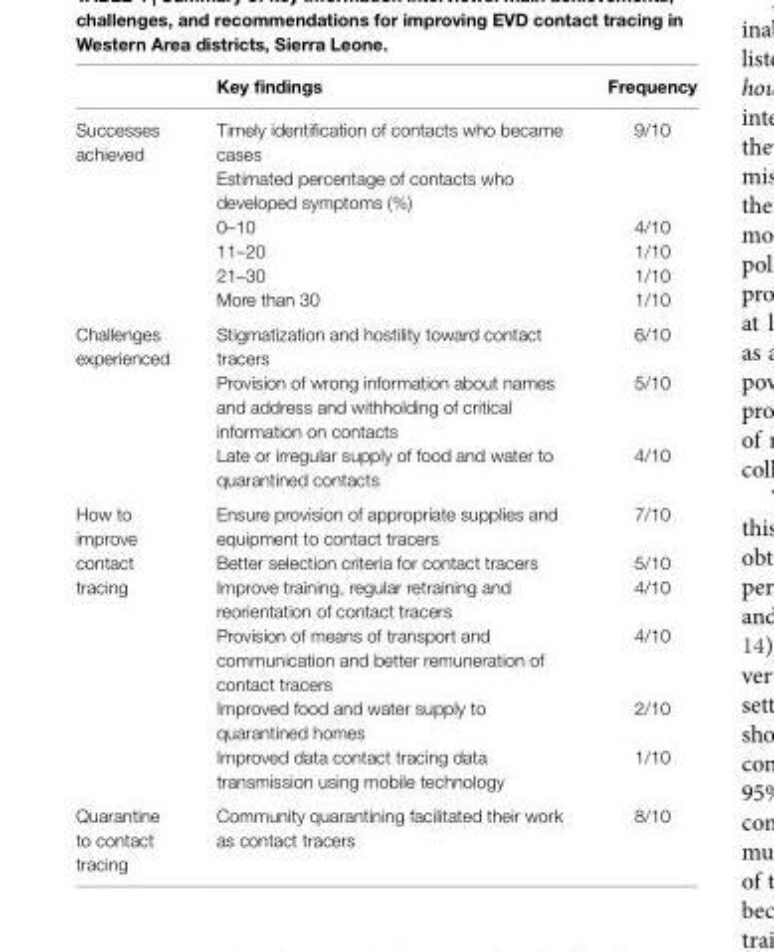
<table><thead><tr><td></td><td>Key findings</td><td>Frequency</td></tr></thead><tbody><tr><td rowspan="6">Successes achieved</td><td>Timely identification of contacts who became cases</td><td>9/10</td></tr><tr><td>Estimated percentage of contacts who developed symptoms (%)</td><td></td></tr><tr><td>0–10</td><td>4/10</td></tr><tr><td>11–20</td><td>1/10</td></tr><tr><td>21–30</td><td>1/10</td></tr><tr><td>More than 30</td><td>1/10</td></tr><tr><td rowspan="3">Challenges experienced</td><td>Stigmatization and hostility toward contact tracers</td><td>6/10</td></tr><tr><td>Provision of wrong information about names and address and withholding of critical information on contacts</td><td>5/10</td></tr><tr><td>Late or irregular supply of food and water to quarantined contacts</td><td>4/10</td></tr><tr><td rowspan="6">How to improve contact tracing</td><td>Ensure provision of appropriate supplies and equipment to contact tracers</td><td>7/10</td></tr><tr><td>Better selection criteria for contact tracers</td><td>5/10</td></tr><tr><td>Improve training, regular retraining and reorientation of contact tracers</td><td>4/10</td></tr><tr><td>Provision of means of transport and communication and better remuneration of contact tracers</td><td>4/10</td></tr><tr><td>Improved food and water supply to quarantined homes</td><td>2/10</td></tr><tr><td>Improved data contact tracing data transmission using mobile technology</td><td>1/10</td></tr><tr><td>Quarantine to contact tracing</td><td>Community quarantining facilitated their work as contact tracers</td><td>8/10</td></tr></tbody></table>